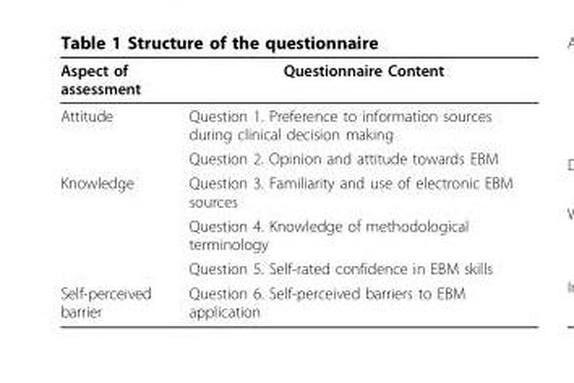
<table><thead><tr><td>Aspect of assessment</td><td>Questionnaire Content</td></tr></thead><tbody><tr><td rowspan="2">Attitude</td><td>Question 1. Preference to information sources during clinical decision making</td></tr><tr><td>Question 2. Opinion and attitude towards EBM</td></tr><tr><td rowspan="3">Knowledge</td><td>Question 3. Familiarity and use of electronic EBM sources</td></tr><tr><td>Question 4. Knowledge of methodological terminology</td></tr><tr><td>Question 5. Self-rated confidence in EBM skills</td></tr><tr><td>Self-perceived barrier</td><td>Question 6. Self-perceived barriers to EBM application</td></tr></tbody></table>